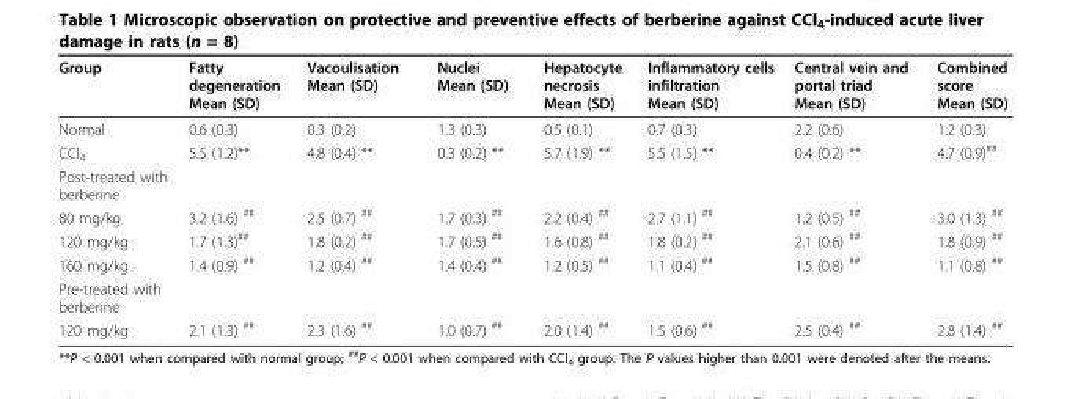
<table><thead><tr><td>Group</td><td>Fatty degeneration Mean (SD)</td><td>Vacoulisation Mean (SD)</td><td>Nuclei Mean (SD)</td><td>Hepatocyte necrosis Mean (SD)</td><td>Inflammatory cells infiltration Mean (SD)</td><td>Central vein and portal triad Mean (SD)</td><td>Combined score Mean (SD)</td></tr></thead><tbody><tr><td>Normal</td><td>0.6 (0.3)</td><td>0.3 (0.2)</td><td>1.3 (0.3)</td><td>0.5 (0.1)</td><td>0.7 (0.3)</td><td>2.2 (0.6)</td><td>1.2 (0.3)</td></tr><tr><td>CCl<sub>4</sub></td><td>5.5 (1.2)**</td><td>4.8 (0.4) **</td><td>0.3 (0.2) **</td><td>5.7 (1.9) **</td><td>5.5 (1.5) **</td><td>0.4 (0.2) **</td><td>4.7 (0.9)<sup>##</sup></td></tr><tr><td colspan="8">Post-treated with berberine</td></tr><tr><td>80 mg/kg</td><td>3.2 (1.6) <sup>##</sup></td><td>2.5 (0.7) <sup>##</sup></td><td>1.7 (0.3) <sup>##</sup></td><td>2.2 (0.4) <sup>##</sup></td><td>2.7 (1.1) <sup>##</sup></td><td>1.2 (0.5) <sup>##</sup></td><td>3.0 (1.3) <sup>##</sup></td></tr><tr><td>120 mg/kg</td><td>1.7 (1.3)<sup>##</sup></td><td>1.8 (0.2) <sup>##</sup></td><td>1.7 (0.5) <sup>##</sup></td><td>1.6 (0.8) <sup>##</sup></td><td>1.8 (0.2) <sup>##</sup></td><td>2.1 (0.6) <sup>##</sup></td><td>1.8 (0.9) <sup>##</sup></td></tr><tr><td>160 mg/kg</td><td>1.4 (0.9) <sup>##</sup></td><td>1.2 (0.4) <sup>##</sup></td><td>1.4 (0.4) <sup>##</sup></td><td>1.2 (0.5) <sup>##</sup></td><td>1.1 (0.4) <sup>##</sup></td><td>1.5 (0.8) <sup>##</sup></td><td>1.1 (0.8) <sup>##</sup></td></tr><tr><td colspan="8">Pre-treated with berberine</td></tr><tr><td>120 mg/kg</td><td>2.1 (1.3) <sup>##</sup></td><td>2.3 (1.6) <sup>##</sup></td><td>1.0 (0.7) <sup>##</sup></td><td>2.0 (1.4) <sup>##</sup></td><td>1.5 (0.6) <sup>##</sup></td><td>2.5 (0.4) <sup>##</sup></td><td>2.8 (1.4) <sup>##</sup></td></tr></tbody></table>